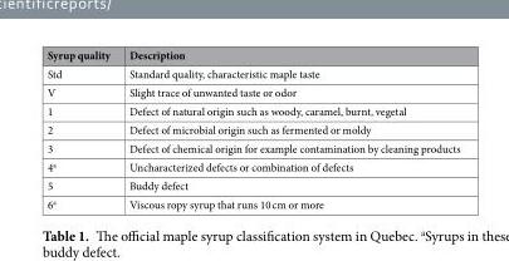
<table><thead><tr><td>Syrup quality</td><td>Description</td></tr></thead><tbody><tr><td>Std</td><td>Standard quality, characteristic maple taste</td></tr><tr><td>V</td><td>Slight trace of unwanted taste or odor</td></tr><tr><td>1</td><td>Defect of natural origin such as woody, caramel, burnt, vegetal</td></tr><tr><td>2</td><td>Defect of microbial origin such as fermented or moldy</td></tr><tr><td>3</td><td>Defect of chemical origin for example contamination by cleaning products</td></tr><tr><td>4<sup>a</sup></td><td>Uncharacterized defects or combination of defects</td></tr><tr><td>5</td><td>Buddy defect</td></tr><tr><td>6<sup>a</sup></td><td>Viscous ropy syrup that runs 10 cm or more</td></tr></tbody></table>